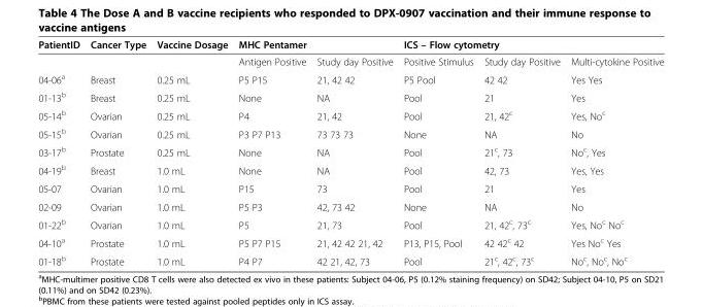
<table><thead><tr><td rowspan="2">PatientID</td><td rowspan="2">Cancer Type</td><td rowspan="2">Vaccine Dosage</td><td colspan="2">MHC Pentamer</td><td colspan="2">ICS – Flow cytometry</td><td rowspan="2">Multi-cytokine Positive</td></tr><tr><td>Antigen Positive</td><td>Study day Positive</td><td>Positive Stimulus</td><td>Study day Positive</td></tr></thead><tbody><tr><td>04-06<sup>a</sup></td><td>Breast</td><td>0.25 mL</td><td>P5 P15</td><td>21, 42 42</td><td>P5 Pool</td><td>42 42</td><td>Yes Yes</td></tr><tr><td>01-13<sup>b</sup></td><td>Breast</td><td>0.25 mL</td><td>None</td><td>NA</td><td>Pool</td><td>21</td><td>Yes</td></tr><tr><td>05-14<sup>b</sup></td><td>Ovarian</td><td>0.25 mL</td><td>P4</td><td>21, 42</td><td>Pool</td><td>21, 42<sup>c</sup></td><td>Yes, No<sup>c</sup></td></tr><tr><td>05-15<sup>b</sup></td><td>Ovarian</td><td>0.25 mL</td><td>P3 P7 P13</td><td>73 73 73</td><td>None</td><td>NA</td><td>No</td></tr><tr><td>03-17<sup>b</sup></td><td>Prostate</td><td>0.25 mL</td><td>None</td><td>NA</td><td>Pool</td><td>21<sup>c</sup>, 73</td><td>No<sup>c</sup>, Yes</td></tr><tr><td>04-19<sup>b</sup></td><td>Breast</td><td>1.0 mL</td><td>None</td><td>NA</td><td>Pool</td><td>42, 73</td><td>Yes, Yes</td></tr><tr><td>05-07</td><td>Ovarian</td><td>1.0 mL</td><td>P15</td><td>73</td><td>Pool</td><td>21</td><td>Yes</td></tr><tr><td>02-09</td><td>Ovarian</td><td>1.0 mL</td><td>P5 P3</td><td>42, 73 42</td><td>None</td><td>NA</td><td>No</td></tr><tr><td>01-22<sup>b</sup></td><td>Ovarian</td><td>1.0 mL</td><td>P5</td><td>21, 73</td><td>Pool</td><td>21, 42<sup>c</sup>, 73<sup>c</sup></td><td>Yes, No<sup>c</sup> No<sup>c</sup></td></tr><tr><td>04-10<sup>a</sup></td><td>Prostate</td><td>1.0 mL</td><td>P5 P7 P15</td><td>21, 42 42 21, 42</td><td>P13, P15, Pool</td><td>42 42<sup>c</sup> 42</td><td>Yes No<sup>c</sup> Yes</td></tr><tr><td>01-18<sup>b</sup></td><td>Prostate</td><td>1.0 mL</td><td>P4 P7</td><td>42 21, 42, 73</td><td>Pool</td><td>21<sup>c</sup>, 42<sup>c</sup>, 73<sup>c</sup></td><td>No<sup>c</sup>, No<sup>c</sup>, No<sup>c</sup></td></tr></tbody></table>